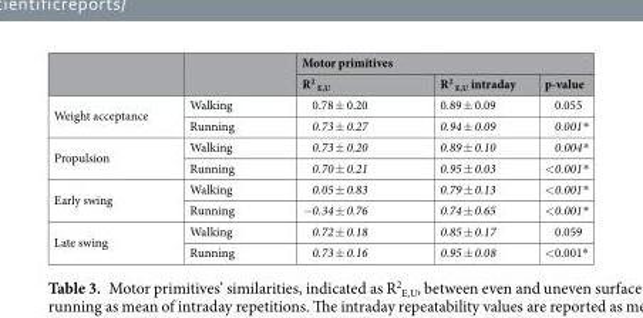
<table><thead><tr><td rowspan="2"></td><td rowspan="2"></td><td colspan="3">Motor primitives</td></tr><tr><td>R<sup>2</sup> <sub>E,U</sub></td><td>R<sup>2</sup> <sub>E,U</sub> intraday</td><td>p-value</td></tr></thead><tbody><tr><td rowspan="2">Weight acceptance</td><td>Walking</td><td>0.78 ± 0.20</td><td>0.89 ± 0.09</td><td>0.055</td></tr><tr><td>Running</td><td>0.73 ± 0.27</td><td>0.94 ± 0.09</td><td>0.001*</td></tr><tr><td rowspan="2">Propulsion</td><td>Walking</td><td>0.73 ± 0.20</td><td>0.89 ± 0.10</td><td>0.004*</td></tr><tr><td>Running</td><td>0.70 ± 0.21</td><td>0.95 ± 0.03</td><td>&lt;0.001*</td></tr><tr><td rowspan="2">Early swing</td><td>Walking</td><td>0.05 ± 0.83</td><td>0.79 ± 0.13</td><td>&lt;0.001*</td></tr><tr><td>Running</td><td>−0.34 ± 0.76</td><td>0.74 ± 0.65</td><td>&lt;0.001*</td></tr><tr><td rowspan="2">Late swing</td><td>Walking</td><td>0.72 ± 0.18</td><td>0.85 ± 0.17</td><td>0.059</td></tr><tr><td>Running</td><td>0.73 ± 0.16</td><td>0.95 ± 0.08</td><td>&lt;0.001*</td></tr></tbody></table>